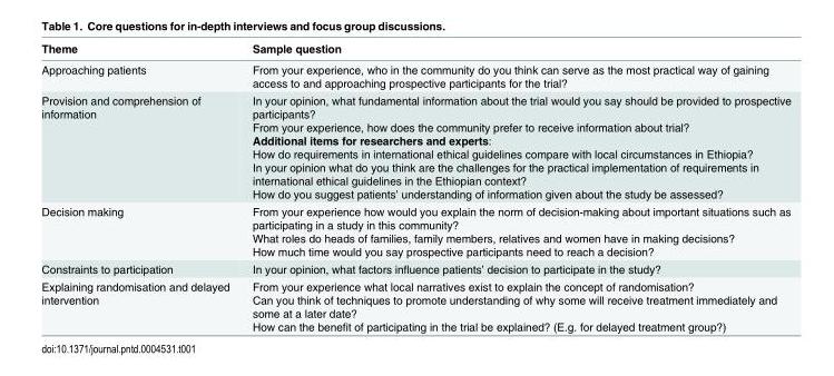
<table><thead><tr><td>Theme</td><td>Sample question</td></tr></thead><tbody><tr><td>Approaching patients</td><td>From your experience, who in the community do you think can serve as the most practical way of gaining access to and approaching prospective participants for the trial?</td></tr><tr><td>Provision and comprehension of information</td><td>In your opinion, what fundamental information about the trial would you say should be provided to prospective participants? From your experience, how does the community prefer to receive information about trial? Additional items for researchers and experts: How do requirements in international ethical guidelines compare with local circumstances in Ethiopia? In your opinion what do you think are the challenges for the practical implementation of requirements in international ethical guidelines in the Ethiopian context? How do you suggest patients’ understanding of information given about the study be assessed?</td></tr><tr><td>Decision making</td><td>From your experience how would you explain the norm of decision-making about important situations such as participating in a study in this community? What roles do heads of families, family members, relatives and women have in making decisions? How much time would you say prospective participants need to reach a decision?</td></tr><tr><td>Constraints to participation</td><td>In your opinion, what factors influence patients’ decision to participate in the study?</td></tr><tr><td>Explaining randomisation and delayed intervention</td><td>From your experience what local narratives exist to explain the concept of randomisation? Can you think of techniques to promote understanding of why some will receive treatment immediately and some at a later date? How can the benefit of participating in the trial be explained? (E.g. for delayed treatment group?)</td></tr></tbody></table>